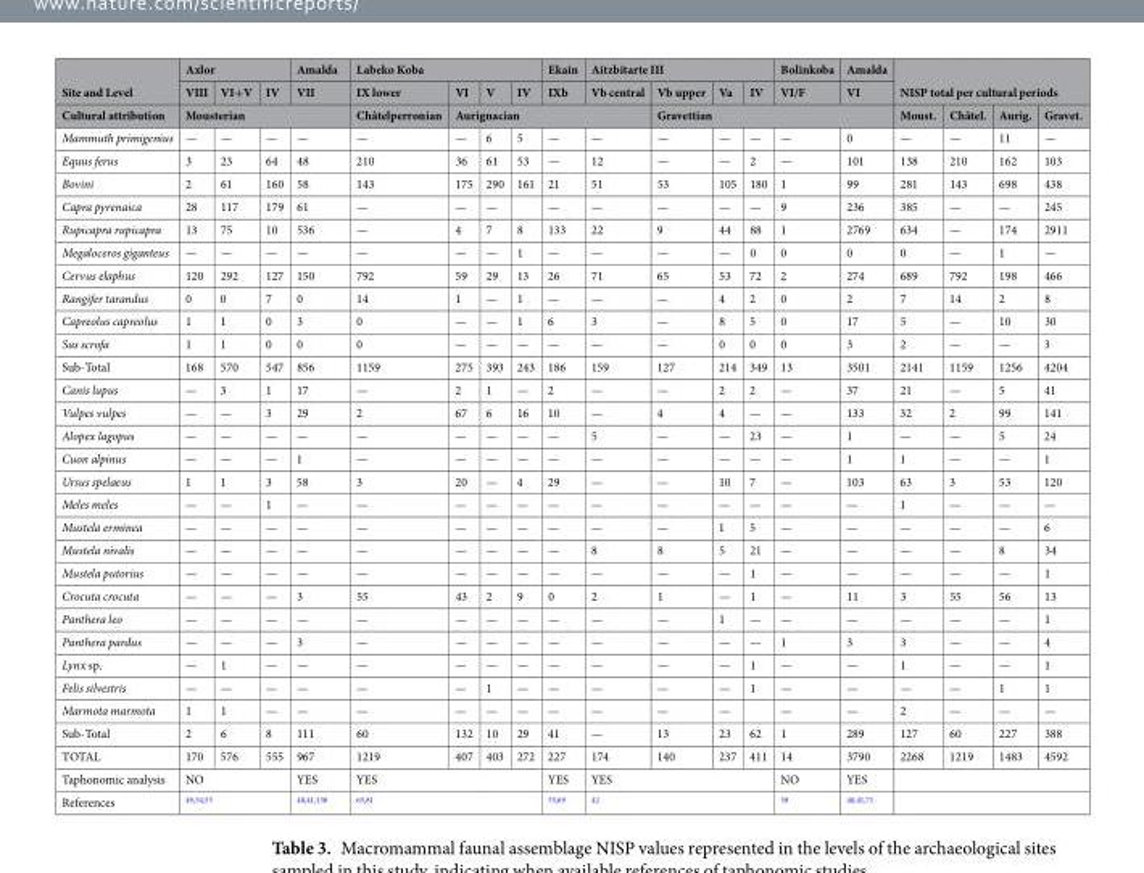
<table><thead><tr><td rowspan="3">Site and Level Cultural attribution</td><td colspan="3">Axlor</td><td rowspan="2">Amalda VII</td><td colspan="4">Labeko Koba</td><td rowspan="2">Ekain IXb</td><td colspan="4">Aitzbitarte III</td><td rowspan="2">Bolinkoba VI/F</td><td rowspan="2">Amalda VI</td><td rowspan="2" colspan="4">NISP total per cultural periods</td></tr><tr><td>VIII</td><td>VI+V</td><td>IV</td><td rowspan="2">IX lower Châtelperronian</td><td>VI</td><td>V</td><td>IV</td><td>Vb central</td><td>Vb upper</td><td>Va</td><td>IV</td></tr><tr><td colspan="4">Mousterian</td><td colspan="5">Aurignacian</td><td colspan="5">Gravettian</td><td>Moust.</td><td>Châtel.</td><td>Aurig.</td><td>Gravet.</td></tr></thead><tbody><tr><td>Mammuth primigenius</td><td>—</td><td>—</td><td>—</td><td>—</td><td>—</td><td>—</td><td>6</td><td>5</td><td>—</td><td>—</td><td>—</td><td>—</td><td>—</td><td>—</td><td>0</td><td>—</td><td>—</td><td>11</td><td>—</td></tr><tr><td>Equus ferus</td><td>3</td><td>23</td><td>64</td><td>48</td><td>210</td><td>36</td><td>61</td><td>53</td><td>—</td><td>12</td><td>—</td><td>—</td><td>2</td><td>—</td><td>101</td><td>138</td><td>210</td><td>162</td><td>103</td></tr><tr><td>Bovini</td><td>2</td><td>61</td><td>160</td><td>58</td><td>143</td><td>175</td><td>290</td><td>161</td><td>21</td><td>51</td><td>53</td><td>105</td><td>180</td><td>1</td><td>99</td><td>281</td><td>143</td><td>698</td><td>438</td></tr><tr><td>Capra pyrenaica</td><td>28</td><td>117</td><td>179</td><td>61</td><td>—</td><td>—</td><td>—</td><td></td><td>—</td><td>—</td><td>—</td><td>—</td><td>—</td><td>9</td><td>236</td><td>385</td><td>—</td><td>—</td><td>245</td></tr><tr><td>Rupicapra rupicapra</td><td>13</td><td>75</td><td>10</td><td>536</td><td>—</td><td>4</td><td>7</td><td>8</td><td>133</td><td>22</td><td>9</td><td>44</td><td>88</td><td>1</td><td>2769</td><td>634</td><td>—</td><td>174</td><td>2911</td></tr><tr><td>Megaloceros giganteus</td><td>—</td><td>—</td><td>—</td><td>—</td><td>—</td><td>—</td><td>—</td><td>1</td><td>—</td><td>—</td><td>—</td><td>—</td><td>0</td><td>0</td><td>0</td><td>0</td><td>—</td><td>1</td><td>—</td></tr><tr><td>Cervus elaphus</td><td>120</td><td>292</td><td>127</td><td>150</td><td>792</td><td>59</td><td>29</td><td>13</td><td>26</td><td>71</td><td>65</td><td>53</td><td>72</td><td>2</td><td>274</td><td>689</td><td>792</td><td>198</td><td>466</td></tr><tr><td>Rangifer tarandus</td><td>0</td><td>0</td><td>7</td><td>0</td><td>14</td><td>1</td><td>—</td><td>1</td><td>—</td><td>—</td><td>—</td><td>4</td><td>2</td><td>0</td><td>2</td><td>7</td><td>14</td><td>2</td><td>8</td></tr><tr><td>Capreolus capreolus</td><td>1</td><td>1</td><td>0</td><td>3</td><td>0</td><td>—</td><td>—</td><td>1</td><td>6</td><td>3</td><td>—</td><td>8</td><td>5</td><td>0</td><td>17</td><td>5</td><td>—</td><td>10</td><td>30</td></tr><tr><td>Sus scrofa</td><td>1</td><td>1</td><td>0</td><td>0</td><td>0</td><td>—</td><td>—</td><td>—</td><td>—</td><td>—</td><td>—</td><td>0</td><td>0</td><td>0</td><td>3</td><td>2</td><td>—</td><td>—</td><td>3</td></tr><tr><td>Sub-Total</td><td>168</td><td>570</td><td>547</td><td>856</td><td>1159</td><td>275</td><td>393</td><td>243</td><td>186</td><td>159</td><td>127</td><td>214</td><td>349</td><td>13</td><td>3501</td><td>2141</td><td>1159</td><td>1256</td><td>4204</td></tr><tr><td>Canis lupus</td><td>—</td><td>3</td><td>1</td><td>17</td><td>—</td><td>2</td><td>1</td><td>—</td><td>2</td><td>—</td><td>—</td><td>2</td><td>2</td><td>—</td><td>37</td><td>21</td><td>—</td><td>5</td><td>41</td></tr><tr><td>Vulpes vulpes</td><td>—</td><td>—</td><td>3</td><td>29</td><td>2</td><td>67</td><td>6</td><td>16</td><td>10</td><td>—</td><td>4</td><td>4</td><td>—</td><td>—</td><td>133</td><td>32</td><td>2</td><td>99</td><td>141</td></tr><tr><td>Alopex lagopus</td><td>—</td><td>—</td><td>—</td><td>—</td><td>—</td><td>—</td><td>—</td><td>—</td><td>—</td><td>5</td><td>—</td><td>—</td><td>23</td><td>—</td><td>1</td><td>—</td><td>—</td><td>5</td><td>24</td></tr><tr><td>Cuon alpinus</td><td>—</td><td>—</td><td>—</td><td>1</td><td>—</td><td>—</td><td>—</td><td>—</td><td>—</td><td>—</td><td>—</td><td>—</td><td>—</td><td>—</td><td>1</td><td>1</td><td>—</td><td>—</td><td>1</td></tr><tr><td>Ursus spelaeus</td><td>1</td><td>1</td><td>3</td><td>58</td><td>3</td><td>20</td><td>—</td><td>4</td><td>29</td><td>—</td><td>—</td><td>10</td><td>7</td><td>—</td><td>103</td><td>63</td><td>3</td><td>53</td><td>120</td></tr><tr><td>Meles meles</td><td>—</td><td>—</td><td>1</td><td>—</td><td>—</td><td>—</td><td>—</td><td>—</td><td>—</td><td>—</td><td>—</td><td>—</td><td>—</td><td>—</td><td>—</td><td>1</td><td>—</td><td>—</td><td>—</td></tr><tr><td>Mustela erminea</td><td>—</td><td>—</td><td>—</td><td>—</td><td>—</td><td>—</td><td>—</td><td>—</td><td>—</td><td>—</td><td>—</td><td>1</td><td>5</td><td>—</td><td>—</td><td>—</td><td>—</td><td>—</td><td>6</td></tr><tr><td>Mustela nivalis</td><td>—</td><td>—</td><td>—</td><td>—</td><td>—</td><td>—</td><td>—</td><td>—</td><td>—</td><td>8</td><td>8</td><td>5</td><td>21</td><td>—</td><td>—</td><td>—</td><td>—</td><td>8</td><td>34</td></tr><tr><td>Mustela putorius</td><td>—</td><td>—</td><td>—</td><td>—</td><td>—</td><td>—</td><td>—</td><td>—</td><td>—</td><td>—</td><td>—</td><td>—</td><td>1</td><td>—</td><td>—</td><td>—</td><td>—</td><td>—</td><td>1</td></tr><tr><td>Crocuta crocuta</td><td>—</td><td>—</td><td>—</td><td>3</td><td>55</td><td>43</td><td>2</td><td>9</td><td>0</td><td>2</td><td>1</td><td>—</td><td>1</td><td>—</td><td>11</td><td>3</td><td>55</td><td>56</td><td>13</td></tr><tr><td>Panthera leo</td><td>—</td><td>—</td><td>—</td><td>—</td><td>—</td><td>—</td><td>—</td><td>—</td><td>—</td><td>—</td><td>—</td><td>1</td><td>—</td><td>—</td><td>—</td><td>—</td><td>—</td><td>—</td><td>1</td></tr><tr><td>Panthera pardus</td><td>—</td><td>—</td><td>—</td><td>3</td><td>—</td><td>—</td><td>—</td><td>—</td><td>—</td><td>—</td><td>—</td><td>—</td><td>—</td><td>1</td><td>3</td><td>3</td><td>—</td><td>—</td><td>4</td></tr><tr><td>Lynx sp.</td><td>—</td><td>1</td><td>—</td><td>—</td><td>—</td><td>—</td><td>—</td><td>—</td><td>—</td><td>—</td><td>—</td><td>—</td><td>1</td><td>—</td><td>—</td><td>1</td><td>—</td><td>—</td><td>1</td></tr><tr><td>Felis silvestris</td><td>—</td><td>—</td><td>—</td><td>—</td><td>—</td><td>—</td><td>1</td><td>—</td><td>—</td><td>—</td><td>—</td><td>—</td><td>1</td><td>—</td><td>—</td><td>—</td><td>—</td><td>1</td><td>1</td></tr><tr><td>Marmota marmota</td><td>1</td><td>1</td><td>—</td><td>—</td><td>—</td><td>—</td><td>—</td><td>—</td><td>—</td><td>—</td><td>—</td><td>—</td><td></td><td>—</td><td>—</td><td>2</td><td>—</td><td>—</td><td>—</td></tr><tr><td>Sub-Total</td><td>2</td><td>6</td><td>8</td><td>111</td><td>60</td><td>132</td><td>10</td><td>29</td><td>41</td><td>—</td><td>13</td><td>23</td><td>62</td><td>1</td><td>289</td><td>127</td><td>60</td><td>227</td><td>388</td></tr><tr><td>TOTAL</td><td>170</td><td>576</td><td>555</td><td>967</td><td>1219</td><td>407</td><td>403</td><td>272</td><td>227</td><td>174</td><td>140</td><td>237</td><td>411</td><td>14</td><td>3790</td><td>2268</td><td>1219</td><td>1483</td><td>4592</td></tr><tr><td>Taphonomic analysis</td><td colspan="3">NO</td><td>YES</td><td colspan="4">YES</td><td>YES</td><td colspan="4">YES</td><td>NO</td><td>YES</td><td colspan="4"></td></tr><tr><td>References</td><td colspan="3"><sup>49,54,55</sup></td><td><sup>40,41,138</sup></td><td colspan="4"><sup>65,81</sup></td><td><sup>53,69</sup></td><td colspan="4"><sup>42</sup></td><td><sup>58</sup></td><td><sup>40,41,71</sup></td><td colspan="4"></td></tr></tbody></table>